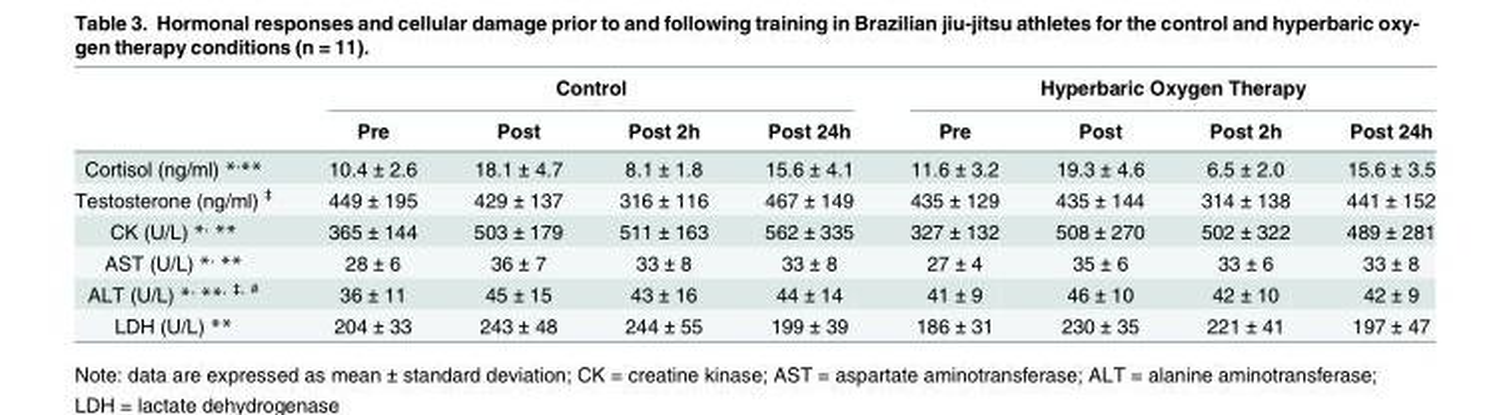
<table><thead><tr><td rowspan="2"></td><td colspan="4">Control</td><td colspan="4">Hyperbaric Oxygen Therapy</td></tr><tr><td>Pre</td><td>Post</td><td>Post 2h</td><td>Post 24h</td><td>Pre</td><td>Post</td><td>Post 2h</td><td>Post 24h</td></tr></thead><tbody><tr><td>Cortisol (ng/ml) *<sup>,</sup>**</td><td>10.4 ± 2.6</td><td>18.1 ± 4.7</td><td>8.1 ± 1.8</td><td>15.6 ± 4.1</td><td>11.6 ± 3.2</td><td>19.3 ± 4.6</td><td>6.5 ± 2.0</td><td>15.6 ± 3.5</td></tr><tr><td>Testosterone (ng/ml) <sup>‡</sup></td><td>449 ± 195</td><td>429 ± 137</td><td>316 ± 116</td><td>467 ± 149</td><td>435 ± 129</td><td>435 ± 144</td><td>314 ± 138</td><td>441 ± 152</td></tr><tr><td>CK (U/L) *<sup>,</sup> **</td><td>365 ± 144</td><td>503 ± 179</td><td>511 ± 163</td><td>562 ± 335</td><td>327 ± 132</td><td>508 ± 270</td><td>502 ± 322</td><td>489 ± 281</td></tr><tr><td>AST (U/L) *<sup>,</sup> **</td><td>28 ± 6</td><td>36 ± 7</td><td>33 ± 8</td><td>33 ± 8</td><td>27 ± 4</td><td>35 ± 6</td><td>33 ± 6</td><td>33 ± 8</td></tr><tr><td>ALT (U/L) *, **, ‡, #</td><td>36 ± 11</td><td>45 ± 15</td><td>43 ± 16</td><td>44 ± 14</td><td>41 ± 9</td><td>46 ± 10</td><td>42 ± 10</td><td>42 ± 9</td></tr><tr><td>LDH (U/L) **</td><td>204 ± 33</td><td>243 ± 48</td><td>244 ± 55</td><td>199 ± 39</td><td>186 ± 31</td><td>230 ± 35</td><td>221 ± 41</td><td>197 ± 47</td></tr></tbody></table>